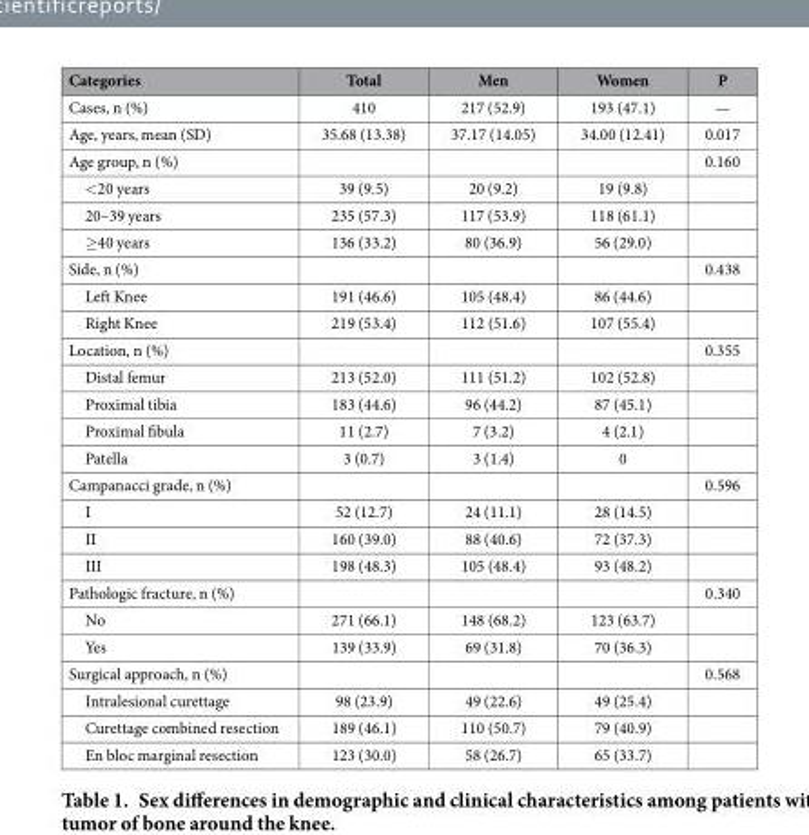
<table><thead><tr><td>Categories</td><td>Total</td><td>Men</td><td>Women</td><td>P</td></tr></thead><tbody><tr><td>Cases, n (%)</td><td>410</td><td>217 (52.9)</td><td>193 (47.1)</td><td>—</td></tr><tr><td>Age, years, mean (SD)</td><td>35.68 (13.38)</td><td>37.17 (14.05)</td><td>34.00 (12.41)</td><td>0.017</td></tr><tr><td>Age group, n (%)</td><td></td><td></td><td></td><td>0.160</td></tr><tr><td>&lt; 20 years</td><td>39 (9.5)</td><td>20 (9.2)</td><td>19 (9.8)</td><td></td></tr><tr><td>20–39 years</td><td>235 (57.3)</td><td>117 (53.9)</td><td>118 (61.1)</td><td></td></tr><tr><td>≥ 40 years</td><td>136 (33.2)</td><td>80 (36.9)</td><td>56 (29.0)</td><td></td></tr><tr><td>Side, n (%)</td><td></td><td></td><td></td><td>0.438</td></tr><tr><td>Left Knee</td><td>191 (46.6)</td><td>105 (48.4)</td><td>86 (44.6)</td><td></td></tr><tr><td>Right Knee</td><td>219 (53.4)</td><td>112 (51.6)</td><td>107 (55.4)</td><td></td></tr><tr><td>Location, n (%)</td><td></td><td></td><td></td><td>0.355</td></tr><tr><td>Distal femur</td><td>213 (52.0)</td><td>111 (51.2)</td><td>102 (52.8)</td><td></td></tr><tr><td>Proximal tibia</td><td>183 (44.6)</td><td>96 (44.2)</td><td>87 (45.1)</td><td></td></tr><tr><td>Proximal fibula</td><td>11 (2.7)</td><td>7 (3.2)</td><td>4 (2.1)</td><td></td></tr><tr><td>Patella</td><td>3 (0.7)</td><td>3 (1.4)</td><td>0</td><td></td></tr><tr><td>Campanacci grade, n (%)</td><td></td><td></td><td></td><td>0.596</td></tr><tr><td>I</td><td>52 (12.7)</td><td>24 (11.1)</td><td>28 (14.5)</td><td></td></tr><tr><td>II</td><td>160 (39.0)</td><td>88 (40.6)</td><td>72 (37.3)</td><td></td></tr><tr><td>III</td><td>198 (48.3)</td><td>105 (48.4)</td><td>93 (48.2)</td><td></td></tr><tr><td>Pathologic fracture, n (%)</td><td></td><td></td><td></td><td>0.340</td></tr><tr><td>No</td><td>271 (66.1)</td><td>148 (68.2)</td><td>123 (63.7)</td><td></td></tr><tr><td>Yes</td><td>139 (33.9)</td><td>69 (31.8)</td><td>70 (36.3)</td><td></td></tr><tr><td>Surgical approach, n (%)</td><td></td><td></td><td></td><td>0.568</td></tr><tr><td>Intralesional curettage</td><td>98 (23.9)</td><td>49 (22.6)</td><td>49 (25.4)</td><td></td></tr><tr><td>Curettage combined resection</td><td>189 (46.1)</td><td>110 (50.7)</td><td>79 (40.9)</td><td></td></tr><tr><td>En bloc marginal resection</td><td>123 (30.0)</td><td>58 (26.7)</td><td>65 (33.7)</td><td></td></tr></tbody></table>